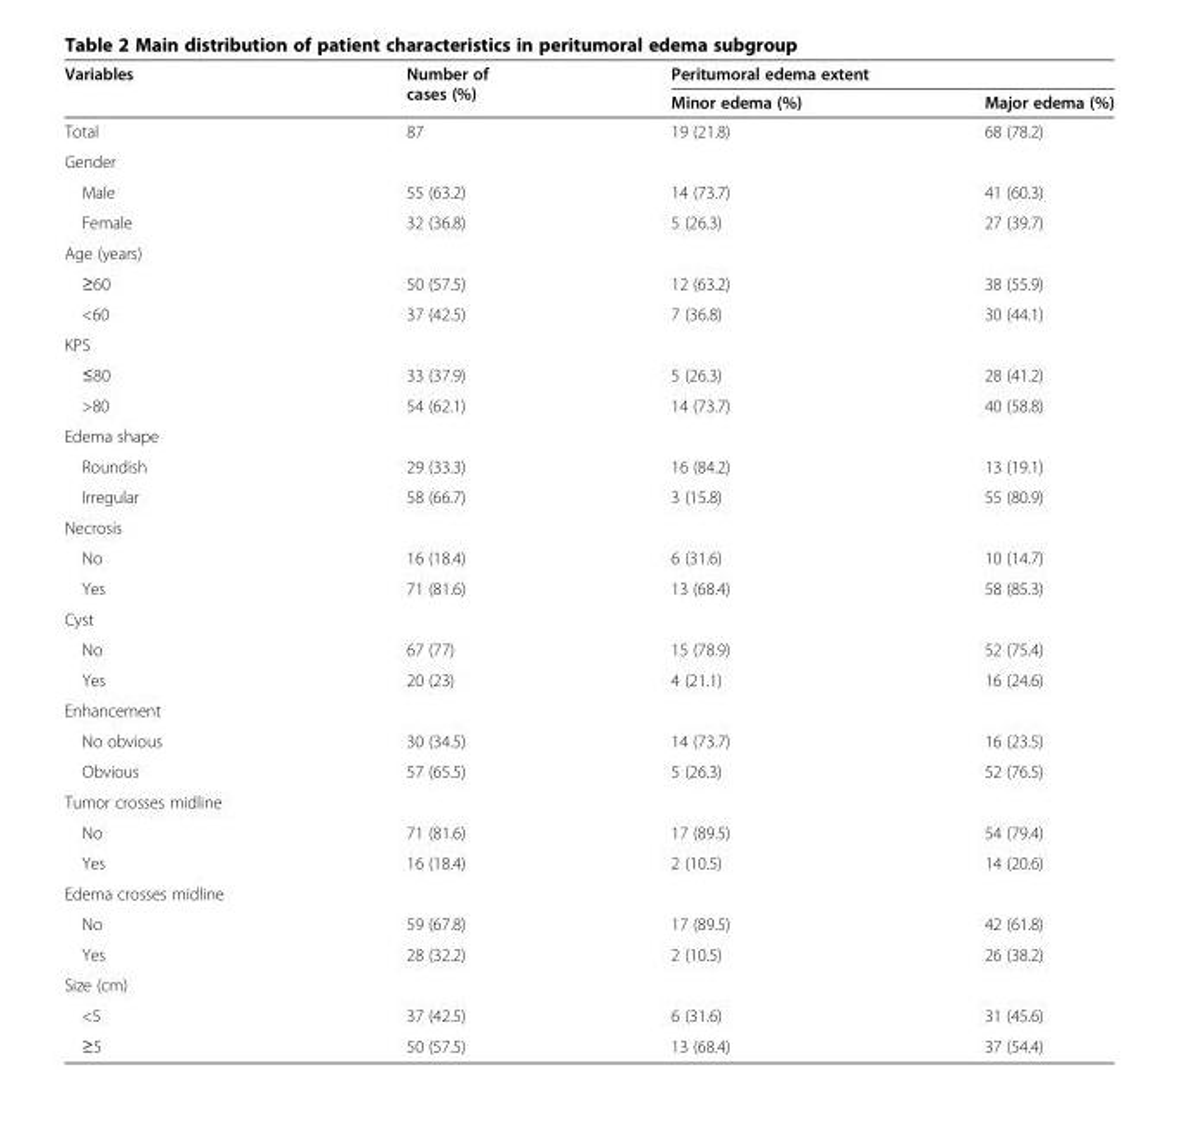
<table><thead><tr><td rowspan="2">Variables</td><td rowspan="2">Number of cases (%)</td><td colspan="2">Peritumoral edema extent</td></tr><tr><td>Minor edema (%)</td><td>Major edema (%)</td></tr></thead><tbody><tr><td>Total</td><td>87</td><td>19 (21.8)</td><td>68 (78.2)</td></tr><tr><td colspan="4">Gender</td></tr><tr><td>Male</td><td>55 (63.2)</td><td>14 (73.7)</td><td>41 (60.3)</td></tr><tr><td>Female</td><td>32 (36.8)</td><td>5 (26.3)</td><td>27 (39.7)</td></tr><tr><td colspan="4">Age (years)</td></tr><tr><td>≥60</td><td>50 (57.5)</td><td>12 (63.2)</td><td>38 (55.9)</td></tr><tr><td>&lt;60</td><td>37 (42.5)</td><td>7 (36.8)</td><td>30 (44.1)</td></tr><tr><td colspan="4">KPS</td></tr><tr><td>≤80</td><td>33 (37.9)</td><td>5 (26.3)</td><td>28 (41.2)</td></tr><tr><td>&gt;80</td><td>54 (62.1)</td><td>14 (73.7)</td><td>40 (58.8)</td></tr><tr><td colspan="4">Edema shape</td></tr><tr><td>Roundish</td><td>29 (33.3)</td><td>16 (84.2)</td><td>13 (19.1)</td></tr><tr><td>Irregular</td><td>58 (66.7)</td><td>3 (15.8)</td><td>55 (80.9)</td></tr><tr><td colspan="4">Necrosis</td></tr><tr><td>No</td><td>16 (18.4)</td><td>6 (31.6)</td><td>10 (14.7)</td></tr><tr><td>Yes</td><td>71 (81.6)</td><td>13 (68.4)</td><td>58 (85.3)</td></tr><tr><td colspan="4">Cyst</td></tr><tr><td>No</td><td>67 (77)</td><td>15 (78.9)</td><td>52 (75.4)</td></tr><tr><td>Yes</td><td>20 (23)</td><td>4 (21.1)</td><td>16 (24.6)</td></tr><tr><td colspan="4">Enhancement</td></tr><tr><td>No obvious</td><td>30 (34.5)</td><td>14 (73.7)</td><td>16 (23.5)</td></tr><tr><td>Obvious</td><td>57 (65.5)</td><td>5 (26.3)</td><td>52 (76.5)</td></tr><tr><td colspan="4">Tumor crosses midline</td></tr><tr><td>No</td><td>71 (81.6)</td><td>17 (89.5)</td><td>54 (79.4)</td></tr><tr><td>Yes</td><td>16 (18.4)</td><td>2 (10.5)</td><td>14 (20.6)</td></tr><tr><td colspan="4">Edema crosses midline</td></tr><tr><td>No</td><td>59 (67.8)</td><td>17 (89.5)</td><td>42 (61.8)</td></tr><tr><td>Yes</td><td>28 (32.2)</td><td>2 (10.5)</td><td>26 (38.2)</td></tr><tr><td colspan="4">Size (cm)</td></tr><tr><td>&lt;5</td><td>37 (42.5)</td><td>6 (31.6)</td><td>31 (45.6)</td></tr><tr><td>≥5</td><td>50 (57.5)</td><td>13 (68.4)</td><td>37 (54.4)</td></tr></tbody></table>